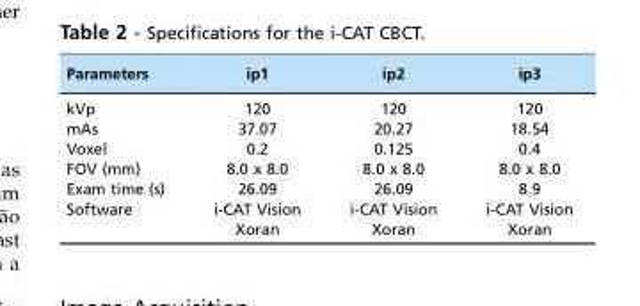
<table><thead><tr><td>Parameters</td><td>ip1</td><td>ip2</td><td>ip3</td></tr></thead><tbody><tr><td>kVp</td><td>120</td><td>120</td><td>120</td></tr><tr><td>mAs</td><td>37.07</td><td>20.27</td><td>18.54</td></tr><tr><td>Voxel</td><td>0.2</td><td>0.125</td><td>0.4</td></tr><tr><td>FOV (mm)</td><td>8.0 x 8.0</td><td>8.0 x 8.0</td><td>8.0 x 8.0</td></tr><tr><td>Exam time (s)</td><td>26.09</td><td>26.09</td><td>8.9</td></tr><tr><td>Software</td><td>i-CAT Vision Xoran</td><td>i-CAT Vision Xoran</td><td>i-CAT Vision Xoran</td></tr></tbody></table>